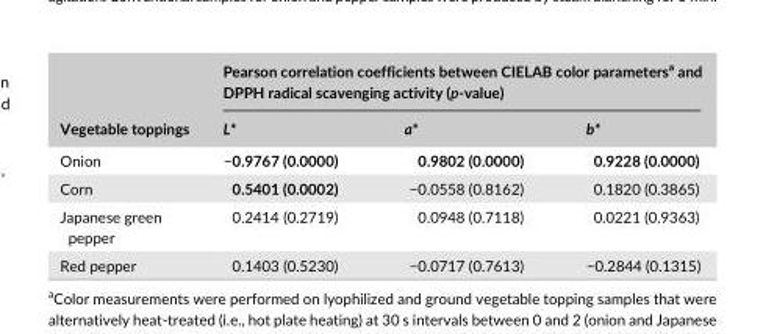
<table><thead><tr><td rowspan="2">Vegetable toppings</td><td colspan="3">Pearson correlation coefficients between CIELAB color parameters<sup>a</sup> and DPPH radical scavenging activity (p-value)</td></tr><tr><td>L*</td><td>a*</td><td>b*</td></tr></thead><tbody><tr><td>Onion</td><td>−0.9767 (0.0000)</td><td>0.9802 (0.0000)</td><td>0.9228 (0.0000)</td></tr><tr><td>Corn</td><td>0.5401 (0.0002)</td><td>−0.0558 (0.8162)</td><td>0.1820 (0.3865)</td></tr><tr><td>Japanese green pepper</td><td>0.2414 (0.2719)</td><td>0.0948 (0.7118)</td><td>0.0221 (0.9363)</td></tr><tr><td>Red pepper</td><td>0.1403 (0.5230)</td><td>−0.0717 (0.7613)</td><td>−0.2844 (0.1315)</td></tr></tbody></table>